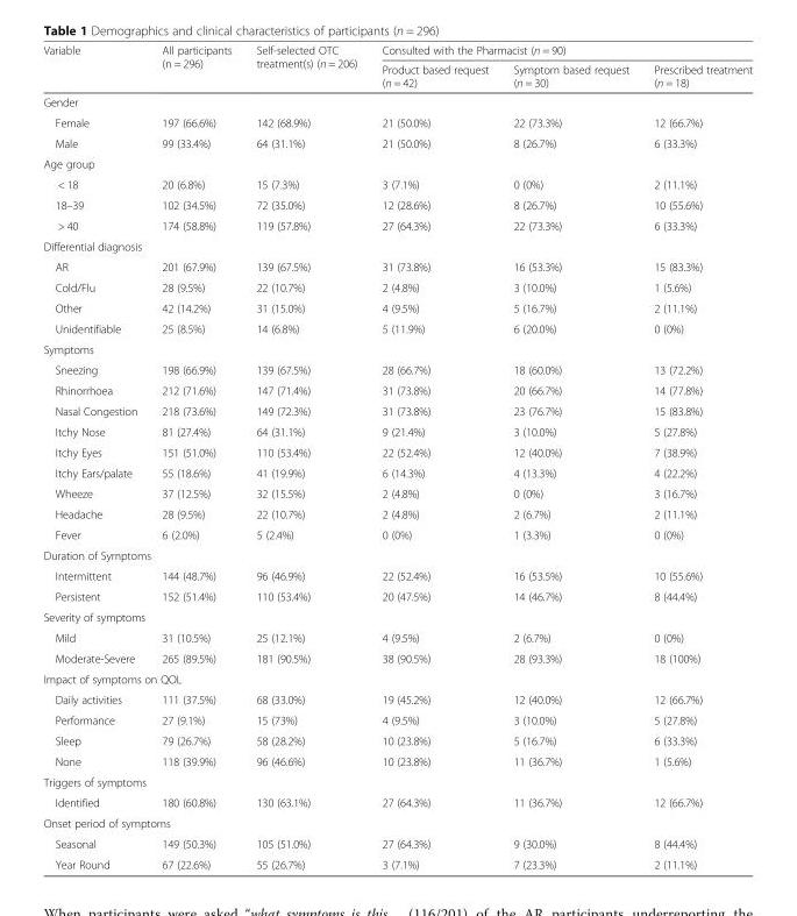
<table><thead><tr><td rowspan="2">Variable</td><td rowspan="2">All participants (n = 296)</td><td rowspan="2">Self-selected OTC treatment(s) (n = 206)</td><td colspan="3">Consulted with the Pharmacist (n = 90)</td></tr><tr><td>Product based request (n = 42)</td><td>Symptom based request (n = 30)</td><td>Prescribed treatment (n = 18)</td></tr></thead><tbody><tr><td colspan="6">Gender</td></tr><tr><td>Female</td><td>197 (66.6%)</td><td>142 (68.9%)</td><td>21 (50.0%)</td><td>22 (73.3%)</td><td>12 (66.7%)</td></tr><tr><td>Male</td><td>99 (33.4%)</td><td>64 (31.1%)</td><td>21 (50.0%)</td><td>8 (26.7%)</td><td>6 (33.3%)</td></tr><tr><td colspan="6">Age group</td></tr><tr><td>&lt; 18</td><td>20 (6.8%)</td><td>15 (7.3%)</td><td>3 (7.1%)</td><td>0 (0%)</td><td>2 (11.1%)</td></tr><tr><td>18–39</td><td>102 (34.5%)</td><td>72 (35.0%)</td><td>12 (28.6%)</td><td>8 (26.7%)</td><td>10 (55.6%)</td></tr><tr><td>&gt; 40</td><td>174 (58.8%)</td><td>119 (57.8%)</td><td>27 (64.3%)</td><td>22 (73.3%)</td><td>6 (33.3%)</td></tr><tr><td colspan="6">Differential diagnosis</td></tr><tr><td>AR</td><td>201 (67.9%)</td><td>139 (67.5%)</td><td>31 (73.8%)</td><td>16 (53.3%)</td><td>15 (83.3%)</td></tr><tr><td>Cold/Flu</td><td>28 (9.5%)</td><td>22 (10.7%)</td><td>2 (4.8%)</td><td>3 (10.0%)</td><td>1 (5.6%)</td></tr><tr><td>Other</td><td>42 (14.2%)</td><td>31 (15.0%)</td><td>4 (9.5%)</td><td>5 (16.7%)</td><td>2 (11.1%)</td></tr><tr><td>Unidentifiable</td><td>25 (8.5%)</td><td>14 (6.8%)</td><td>5 (11.9%)</td><td>6 (20.0%)</td><td>0 (0%)</td></tr><tr><td colspan="6">Symptoms</td></tr><tr><td>Sneezing</td><td>198 (66.9%)</td><td>139 (67.5%)</td><td>28 (66.7%)</td><td>18 (60.0%)</td><td>13 (72.2%)</td></tr><tr><td>Rhinorrhoea</td><td>212 (71.6%)</td><td>147 (71.4%)</td><td>31 (73.8%)</td><td>20 (66.7%)</td><td>14 (77.8%)</td></tr><tr><td>Nasal Congestion</td><td>218 (73.6%)</td><td>149 (72.3%)</td><td>31 (73.8%)</td><td>23 (76.7%)</td><td>15 (83.8%)</td></tr><tr><td>Itchy Nose</td><td>81 (27.4%)</td><td>64 (31.1%)</td><td>9 (21.4%)</td><td>3 (10.0%)</td><td>5 (27.8%)</td></tr><tr><td>Itchy Eyes</td><td>151 (51.0%)</td><td>110 (53.4%)</td><td>22 (52.4%)</td><td>12 (40.0%)</td><td>7 (38.9%)</td></tr><tr><td>Itchy Ears/palate</td><td>55 (18.6%)</td><td>41 (19.9%)</td><td>6 (14.3%)</td><td>4 (13.3%)</td><td>4 (22.2%)</td></tr><tr><td>Wheeze</td><td>37 (12.5%)</td><td>32 (15.5%)</td><td>2 (4.8%)</td><td>0 (0%)</td><td>3 (16.7%)</td></tr><tr><td>Headache</td><td>28 (9.5%)</td><td>22 (10.7%)</td><td>2 (4.8%)</td><td>2 (6.7%)</td><td>2 (11.1%)</td></tr><tr><td>Fever</td><td>6 (2.0%)</td><td>5 (2.4%)</td><td>0 (0%)</td><td>1 (3.3%)</td><td>0 (0%)</td></tr><tr><td colspan="6">Duration of Symptoms</td></tr><tr><td>Intermittent</td><td>144 (48.7%)</td><td>96 (46.9%)</td><td>22 (52.4%)</td><td>16 (53.5%)</td><td>10 (55.6%)</td></tr><tr><td>Persistent</td><td>152 (51.4%)</td><td>110 (53.4%)</td><td>20 (47.5%)</td><td>14 (46.7%)</td><td>8 (44.4%)</td></tr><tr><td colspan="6">Severity of symptoms</td></tr><tr><td>Mild</td><td>31 (10.5%)</td><td>25 (12.1%)</td><td>4 (9.5%)</td><td>2 (6.7%)</td><td>0 (0%)</td></tr><tr><td>Moderate-Severe</td><td>265 (89.5%)</td><td>181 (90.5%)</td><td>38 (90.5%)</td><td>28 (93.3%)</td><td>18 (100%)</td></tr><tr><td colspan="6">Impact of symptoms on QOL</td></tr><tr><td>Daily activities</td><td>111 (37.5%)</td><td>68 (33.0%)</td><td>19 (45.2%)</td><td>12 (40.0%)</td><td>12 (66.7%)</td></tr><tr><td>Performance</td><td>27 (9.1%)</td><td>15 (73%)</td><td>4 (9.5%)</td><td>3 (10.0%)</td><td>5 (27.8%)</td></tr><tr><td>Sleep</td><td>79 (26.7%)</td><td>58 (28.2%)</td><td>10 (23.8%)</td><td>5 (16.7%)</td><td>6 (33.3%)</td></tr><tr><td>None</td><td>118 (39.9%)</td><td>96 (46.6%)</td><td>10 (23.8%)</td><td>11 (36.7%)</td><td>1 (5.6%)</td></tr><tr><td colspan="6">Triggers of symptoms</td></tr><tr><td>Identified</td><td>180 (60.8%)</td><td>130 (63.1%)</td><td>27 (64.3%)</td><td>11 (36.7%)</td><td>12 (66.7%)</td></tr><tr><td colspan="6">Onset period of symptoms</td></tr><tr><td>Seasonal</td><td>149 (50.3%)</td><td>105 (51.0%)</td><td>27 (64.3%)</td><td>9 (30.0%)</td><td>8 (44.4%)</td></tr><tr><td>Year Round</td><td>67 (22.6%)</td><td>55 (26.7%)</td><td>3 (7.1%)</td><td>7 (23.3%)</td><td>2 (11.1%)</td></tr></tbody></table>